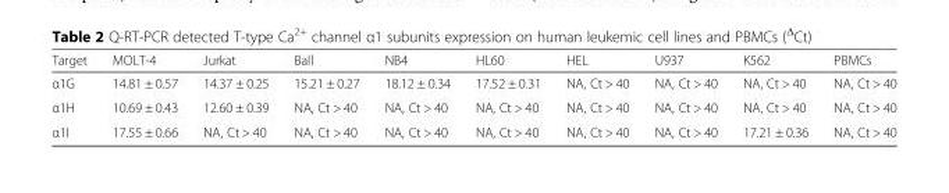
<table><thead><tr><td>Target</td><td>MOLT-4</td><td>Jurkat</td><td>Ball</td><td>NB4</td><td>HL60</td><td>HEL</td><td>U937</td><td>K562</td><td>PBMCs</td></tr></thead><tbody><tr><td>α1G</td><td>14.81 ± 0.57</td><td>14.37 ± 0.25</td><td>15.21 ± 0.27</td><td>18.12 ± 0.34</td><td>17.52 ± 0.31</td><td>NA, Ct &gt; 40</td><td>NA, Ct &gt; 40</td><td>NA, Ct &gt; 40</td><td>NA, Ct &gt; 40</td></tr><tr><td>α1H</td><td>10.69 ± 0.43</td><td>12.60 ± 0.39</td><td>NA, Ct &gt; 40</td><td>NA, Ct &gt; 40</td><td>NA, Ct &gt; 40</td><td>NA, Ct &gt; 40</td><td>NA, Ct &gt; 40</td><td>NA, Ct &gt; 40</td><td>NA, Ct &gt; 40</td></tr><tr><td>α1I</td><td>17.55 ± 0.66</td><td>NA, Ct &gt; 40</td><td>NA, Ct &gt; 40</td><td>NA, Ct &gt; 40</td><td>NA, Ct &gt; 40</td><td>NA, Ct &gt; 40</td><td>NA, Ct &gt; 40</td><td>17.21 ± 0.36</td><td>NA, Ct &gt; 40</td></tr></tbody></table>